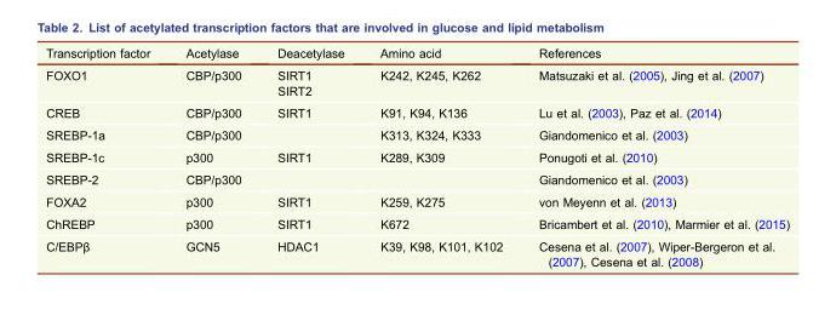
<table><thead><tr><td>Transcription factor</td><td>Acetylase</td><td>Deacetylase</td><td>Amino acid</td><td>References</td></tr></thead><tbody><tr><td>FOXO1</td><td>CBP/p300</td><td>SIRT1 SIRT2</td><td>K242, K245, K262</td><td>Matsuzaki et al. (2005), Jing et al. (2007)</td></tr><tr><td>CREB</td><td>CBP/p300</td><td>SIRT1</td><td>K91, K94, K136</td><td>Lu et al. (2003), Paz et al. (2014)</td></tr><tr><td>SREBP-1a</td><td>CBP/p300</td><td></td><td>K313, K324, K333</td><td>Giandomenico et al. (2003)</td></tr><tr><td>SREBP-1c</td><td>p300</td><td>SIRT1</td><td>K289, K309</td><td>Ponugoti et al. (2010)</td></tr><tr><td>SREBP-2</td><td>CBP/p300</td><td></td><td></td><td>Giandomenico et al. (2003)</td></tr><tr><td>FOXA2</td><td>p300</td><td>SIRT1</td><td>K259, K275</td><td>von Meyenn et al. (2013)</td></tr><tr><td>ChREBP</td><td>p300</td><td>SIRT1</td><td>K672</td><td>Bricambert et al. (2010), Marmier et al. (2015)</td></tr><tr><td>C/EBPβ</td><td>GCN5</td><td>HDAC1</td><td>K39, K98, K101, K102</td><td>Cesena et al. (2007), Wiper-Bergeron et al. (2007), Cesena et al. (2008)</td></tr></tbody></table>